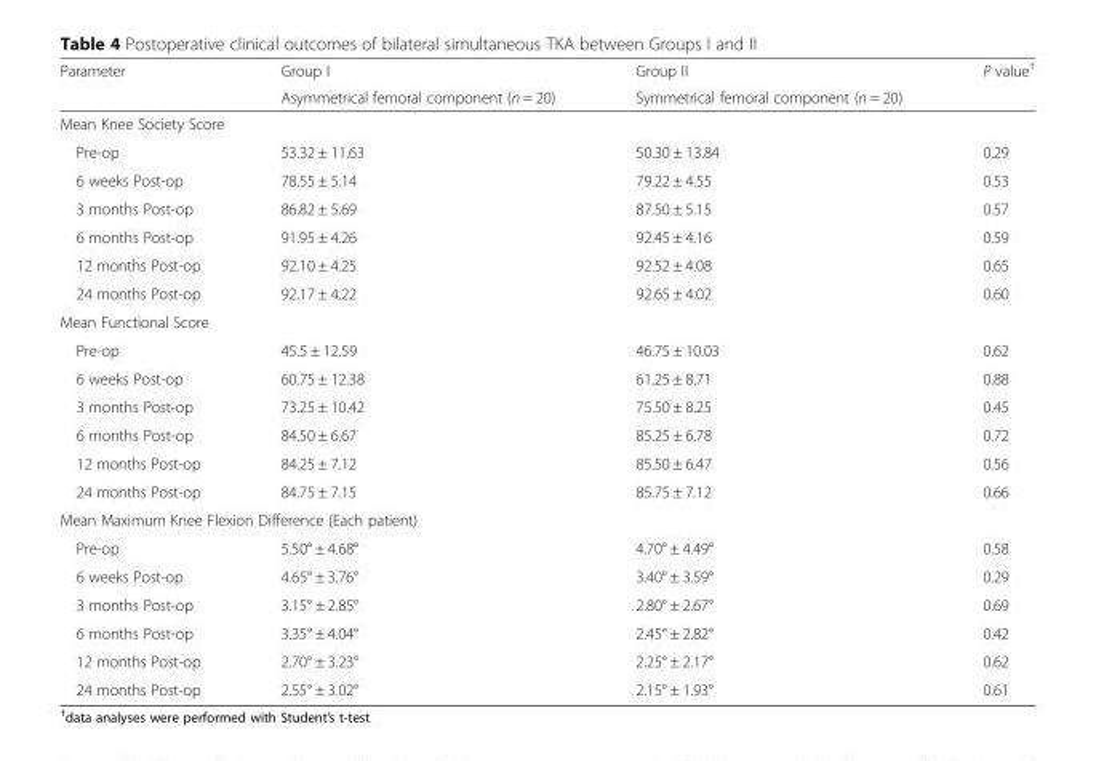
<table><thead><tr><td rowspan="2">Parameter</td><td rowspan="2">Group I Asymmetrical femoral component (n = 20)</td><td rowspan="2">Group II Symmetrical femoral component (n = 20)</td><td rowspan="2">P value<sup>†</sup></td></tr><tr></tr></thead><tbody><tr><td colspan="4">Mean Knee Society Score</td></tr><tr><td>Pre-op</td><td>53.32 ± 11.63</td><td>50.30 ± 13.84</td><td>0.29</td></tr><tr><td>6 weeks Post-op</td><td>78.55 ± 5.14</td><td>79.22 ± 4.55</td><td>0.53</td></tr><tr><td>3 months Post-op</td><td>86.82 ± 5.69</td><td>87.50 ± 5.15</td><td>0.57</td></tr><tr><td>6 months Post-op</td><td>91.95 ± 4.26</td><td>92.45 ± 4.16</td><td>0.59</td></tr><tr><td>12 months Post-op</td><td>92.10 ± 4.25</td><td>92.52 ± 4.08</td><td>0.65</td></tr><tr><td>24 months Post-op</td><td>92.17 ± 4.22</td><td>92.65 ± 4.02</td><td>0.60</td></tr><tr><td colspan="4">Mean Functional Score</td></tr><tr><td>Pre-op</td><td>45.5 ± 12.59</td><td>46.75 ± 10.03</td><td>0.62</td></tr><tr><td>6 weeks Post-op</td><td>60.75 ± 12.38</td><td>61.25 ± 8.71</td><td>0.88</td></tr><tr><td>3 months Post-op</td><td>73.25 ± 10.42</td><td>75.50 ± 8.25</td><td>0.45</td></tr><tr><td>6 months Post-op</td><td>84.50 ± 6.67</td><td>85.25 ± 6.78</td><td>0.72</td></tr><tr><td>12 months Post-op</td><td>84.25 ± 7.12</td><td>85.50 ± 6.47</td><td>0.56</td></tr><tr><td>24 months Post-op</td><td>84.75 ± 7.15</td><td>85.75 ± 7.12</td><td>0.66</td></tr><tr><td colspan="4">Mean Maximum Knee Flexion Difference (Each patient)</td></tr><tr><td>Pre-op</td><td>5.50° ± 4.68°</td><td>4.70° ± 4.49°</td><td>0.58</td></tr><tr><td>6 weeks Post-op</td><td>4.65° ± 3.76°</td><td>3.40° ± 3.59°</td><td>0.29</td></tr><tr><td>3 months Post-op</td><td>3.15° ± 2.85°</td><td>2.80° ± 2.67°</td><td>0.69</td></tr><tr><td>6 months Post-op</td><td>3.35° ± 4.04°</td><td>2.45° ± 2.82°</td><td>0.42</td></tr><tr><td>12 months Post-op</td><td>2.70° ± 3.23°</td><td>2.25° ± 2.17°</td><td>0.62</td></tr><tr><td>24 months Post-op</td><td>2.55° ± 3.02°</td><td>2.15° ± 1.93°</td><td>0.61</td></tr></tbody></table>